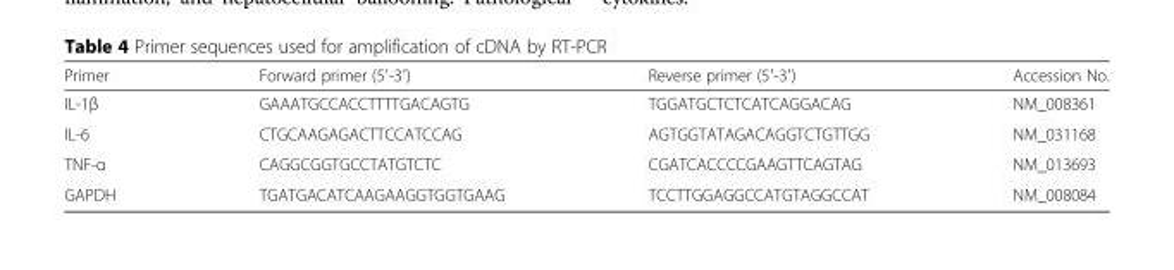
<table><thead><tr><td>Primer</td><td>Forward primer (5′-3′)</td><td>Reverse primer (5′-3′)</td><td>Accession No.</td></tr></thead><tbody><tr><td>IL-1β</td><td>GAAATGCCACCTTTTGACAGTG</td><td>TGGATGCTCTCATCAGGACAG</td><td>NM_008361</td></tr><tr><td>IL-6</td><td>CTGCAAGAGACTTCCATCCAG</td><td>AGTGGTATAGACAGGTCTGTTGG</td><td>NM_031168</td></tr><tr><td>TNF-α</td><td>CAGGCGGTGCCTATGTCTC</td><td>CGATCACCCCGAAGTTCAGTAG</td><td>NM_013693</td></tr><tr><td>GAPDH</td><td>TGATGACATCAAGAAGGTGGTGAAG</td><td>TCCTTGGAGGCCATGTAGGCCAT</td><td>NM_008084</td></tr></tbody></table>